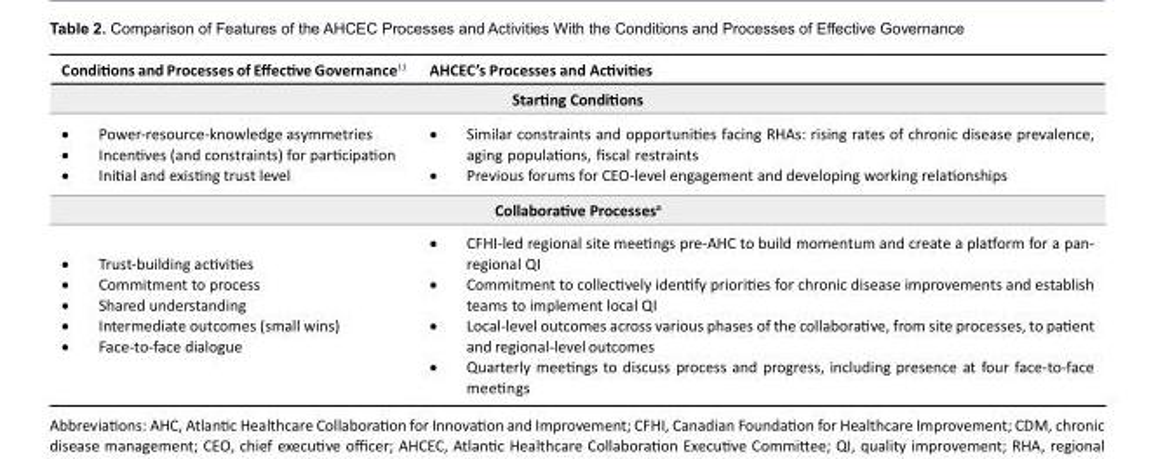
<table><tbody><tr><td>Conditions and Processes of Effective Governance<sup>11</sup></td><td>AHCEC’s Processes and Activities</td></tr><tr><td colspan="2">Starting Conditions</td></tr><tr><td>• Power-resource-knowledge asymmetries • Incentives (and constraints) for participation • Initial and existing trust level</td><td>• Similar constraints and opportunities facing RHAs: rising rates of chronic disease prevalence, aging populations, fiscal restraints • Previous forums for CEO-level engagement and developing working relationships</td></tr><tr><td colspan="2">Collaborative Processes<sup>a</sup></td></tr><tr><td>• Trust-building activities • Commitment to process • Shared understanding • Intermediate outcomes (small wins) • Face-to-face dialogue</td><td>• CFHI-led regional site meetings pre-AHC to build momentum and create a platform for a pan- regional QI • Commitment to collectively identify priorities for chronic disease improvements and establish teams to implement local QI • Local-level outcomes across various phases of the collaborative, from site processes, to patient and regional-level outcomes • Quarterly meetings to discuss process and progress, including presence at four face-to-face meetings</td></tr></tbody></table>